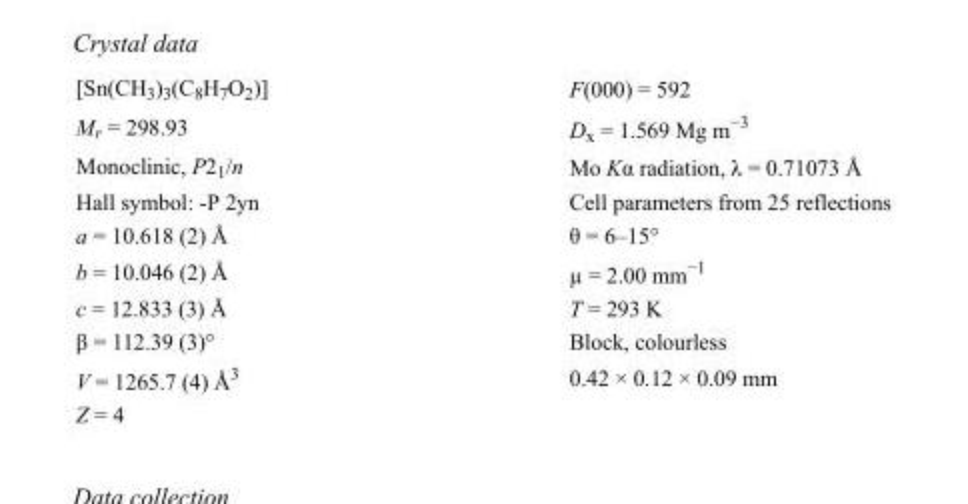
<table><tbody><tr><td>[Sn(CH<sub>3</sub>)<sub>3</sub>(C<sub>8</sub>H<sub>7</sub>O<sub>2</sub>)]</td><td>F(000) = 592</td></tr><tr><td>M<sub>r</sub> = 298.93</td><td>D<sub>x</sub> = 1.569 Mg m<sup>−3</sup></td></tr><tr><td>Monoclinic, P2<sub>1</sub>/n</td><td>Mo Kα radiation, λ = 0.71073 Å</td></tr><tr><td>Hall symbol: -P 2yn</td><td>Cell parameters from 25 reflections</td></tr><tr><td>a = 10.618 (2) Å</td><td>θ = 6–15°</td></tr><tr><td>b = 10.046 (2) Å</td><td>µ = 2.00 mm<sup>−1</sup></td></tr><tr><td>c = 12.833 (3) Å</td><td>T = 293 K</td></tr><tr><td>β = 112.39 (3)°</td><td>Block, colourless</td></tr><tr><td>V = 1265.7 (4) Å<sup>3</sup></td><td>0.42 × 0.12 × 0.09 mm</td></tr><tr><td>Z = 4</td><td></td></tr></tbody></table>